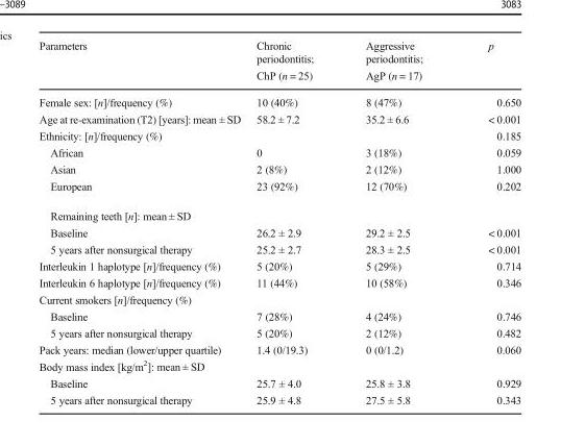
<table><thead><tr><td>Parameters</td><td>Chronic periodontitis; ChP (n = 25)</td><td>Aggressive periodontitis; AgP (n = 17)</td><td>p</td></tr></thead><tbody><tr><td>Female sex: [n]/frequency (%)</td><td>10 (40%)</td><td>8 (47%)</td><td>0.650</td></tr><tr><td>Age at re-examination (T2) [years]: mean ± SD</td><td>58.2 ± 7.2</td><td>35.2 ± 6.6</td><td>&lt; 0.001</td></tr><tr><td>Ethnicity: [n]/frequency (%)</td><td></td><td></td><td>0.185</td></tr><tr><td>African</td><td>0</td><td>3 (18%)</td><td>0.059</td></tr><tr><td>Asian</td><td>2 (8%)</td><td>2 (12%)</td><td>1.000</td></tr><tr><td>European</td><td>23 (92%)</td><td>12 (70%)</td><td>0.202</td></tr><tr><td colspan="4">Remaining teeth [n]: mean ± SD</td></tr><tr><td>Baseline</td><td>26.2 ± 2.9</td><td>29.2 ± 2.5</td><td>&lt; 0.001</td></tr><tr><td>5 years after nonsurgical therapy</td><td>25.2 ± 2.7</td><td>28.3 ± 2.5</td><td>&lt; 0.001</td></tr><tr><td>Interleukin 1 haplotype [n]/frequency (%)</td><td>5 (20%)</td><td>5 (29%)</td><td>0.714</td></tr><tr><td>Interleukin 6 haplotype [n]/frequency (%)</td><td>11 (44%)</td><td>10 (58%)</td><td>0.346</td></tr><tr><td colspan="4">Current smokers [n]/frequency (%)</td></tr><tr><td>Baseline</td><td>7 (28%)</td><td>4 (24%)</td><td>0.746</td></tr><tr><td>5 years after nonsurgical therapy</td><td>5 (20%)</td><td>2 (12%)</td><td>0.482</td></tr><tr><td>Pack years: median (lower/upper quartile)</td><td>1.4 (0/19.3)</td><td>0 (0/1.2)</td><td>0.060</td></tr><tr><td colspan="4">Body mass index [kg/m<sup>2</sup>]: mean ± SD</td></tr><tr><td>Baseline</td><td>25.7 ± 4.0</td><td>25.8 ± 3.8</td><td>0.929</td></tr><tr><td>5 years after nonsurgical therapy</td><td>25.9 ± 4.8</td><td>27.5 ± 5.8</td><td>0.343</td></tr></tbody></table>